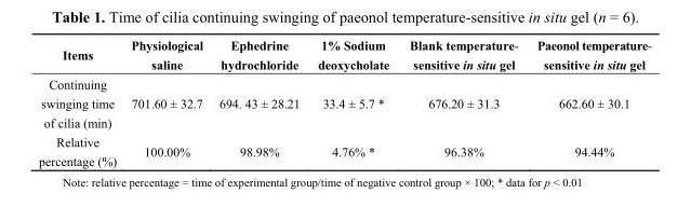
<table><thead><tr><td>Items</td><td>Physiological saline</td><td>Ephedrine hydrochloride</td><td>1% Sodium deoxycholate</td><td>Blank temperature- sensitive in situ gel</td><td>Paeonol temperature- sensitive in situ gel</td></tr></thead><tbody><tr><td>Continuing swinging time of cilia (min)</td><td>701.60 ± 32.7</td><td>694. 43 ± 28.21</td><td>33.4 ± 5.7 *</td><td>676.20 ± 31.3</td><td>662.60 ± 30.1</td></tr><tr><td>Relative percentage (%)</td><td>100.00%</td><td>98.98%</td><td>4.76% *</td><td>96.38%</td><td>94.44%</td></tr></tbody></table>